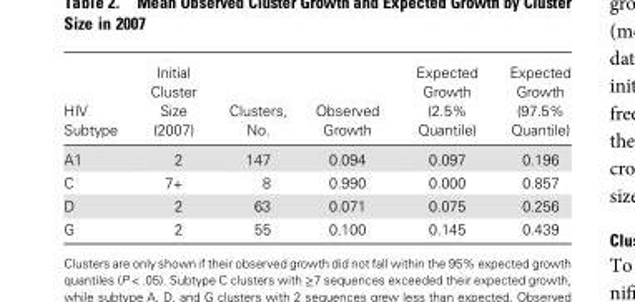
<table><thead><tr><td>HIV Subtype</td><td>Initial Cluster Size (2007)</td><td>Clusters, No.</td><td>Observed Growth</td><td>Expected Growth (2.5% Quantile)</td><td>Expected Growth (97.5% Quantile)</td></tr></thead><tbody><tr><td>A1</td><td>2</td><td>147</td><td>0.094</td><td>0.097</td><td>0.196</td></tr><tr><td>C</td><td>7+</td><td>8</td><td>0.990</td><td>0.000</td><td>0.857</td></tr><tr><td>D</td><td>2</td><td>63</td><td>0.071</td><td>0.075</td><td>0.256</td></tr><tr><td>G</td><td>2</td><td>55</td><td>0.100</td><td>0.145</td><td>0.439</td></tr></tbody></table>